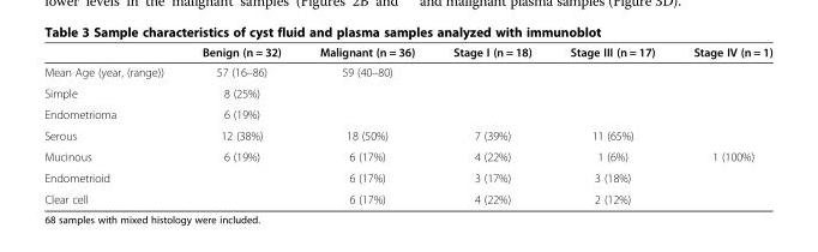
<table><thead><tr><td></td><td>Benign (n = 32)</td><td>Malignant (n = 36)</td><td>Stage I (n = 18)</td><td>Stage III (n = 17)</td><td>Stage IV (n = 1)</td></tr></thead><tbody><tr><td>Mean Age (year, (range))</td><td>57 (16–86)</td><td>59 (40–80)</td><td></td><td></td><td></td></tr><tr><td>Simple</td><td>8 (25%)</td><td></td><td></td><td></td><td></td></tr><tr><td>Endometrioma</td><td>6 (19%)</td><td></td><td></td><td></td><td></td></tr><tr><td>Serous</td><td>12 (38%)</td><td>18 (50%)</td><td>7 (39%)</td><td>11 (65%)</td><td></td></tr><tr><td>Mucinous</td><td>6 (19%)</td><td>6 (17%)</td><td>4 (22%)</td><td>1 (6%)</td><td>1 (100%)</td></tr><tr><td>Endometrioid</td><td></td><td>6 (17%)</td><td>3 (17%)</td><td>3 (18%)</td><td></td></tr><tr><td>Clear cell</td><td></td><td>6 (17%)</td><td>4 (22%)</td><td>2 (12%)</td><td></td></tr></tbody></table>